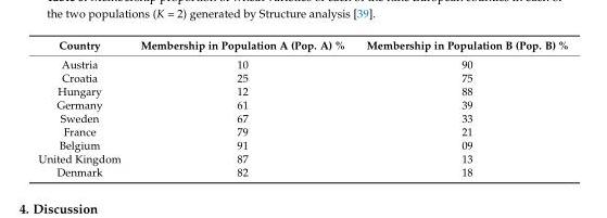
<table><thead><tr><td>Country</td><td>Membership in Population A (Pop. A) %</td><td>Membership in Population B (Pop. B) %</td></tr></thead><tbody><tr><td>Austria</td><td>10</td><td>90</td></tr><tr><td>Croatia</td><td>25</td><td>75</td></tr><tr><td>Hungary</td><td>12</td><td>88</td></tr><tr><td>Germany</td><td>61</td><td>39</td></tr><tr><td>Sweden</td><td>67</td><td>33</td></tr><tr><td>France</td><td>79</td><td>21</td></tr><tr><td>Belgium</td><td>91</td><td>09</td></tr><tr><td>United Kingdom</td><td>87</td><td>13</td></tr><tr><td>Denmark</td><td>82</td><td>18</td></tr></tbody></table>